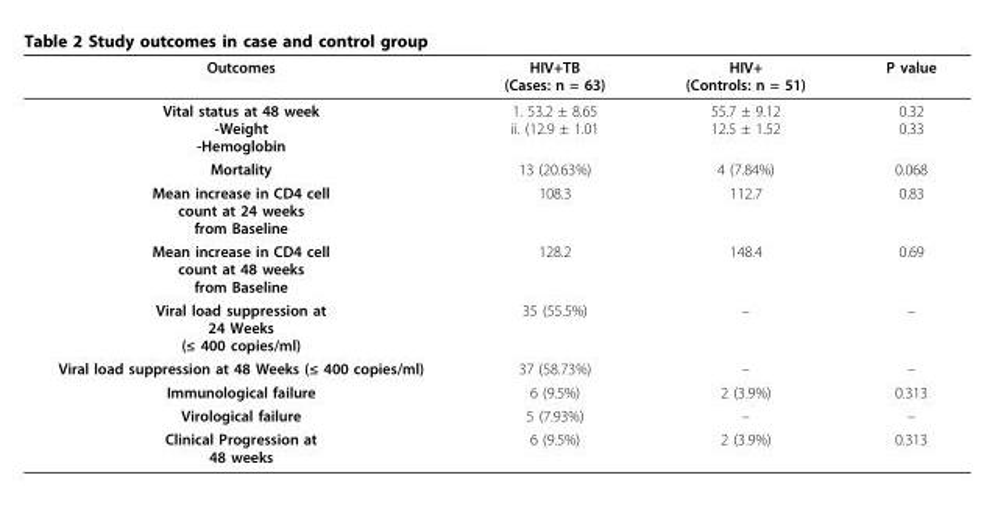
<table><thead><tr><td>Outcomes</td><td>HIV+TB (Cases: n = 63)</td><td>HIV+ (Controls: n = 51)</td><td>P value</td></tr></thead><tbody><tr><td>Vital status at 48 week -Weight -Hemoglobin</td><td>1. 53.2 ± 8.65 ii. (12.9 ± 1.01</td><td>55.7 ± 9.12 12.5 ± 1.52</td><td>0.32 0.33</td></tr><tr><td>Mortality</td><td>13 (20.63%)</td><td>4 (7.84%)</td><td>0.068</td></tr><tr><td>Mean increase in CD4 cell count at 24 weeks from Baseline</td><td>108.3</td><td>112.7</td><td>0.83</td></tr><tr><td>Mean increase in CD4 cell count at 48 weeks from Baseline</td><td>128.2</td><td>148.4</td><td>0.69</td></tr><tr><td>Viral load suppression at 24 Weeks (≤ 400 copies/ml)</td><td>35 (55.5%)</td><td>–</td><td>–</td></tr><tr><td>Viral load suppression at 48 Weeks (≤ 400 copies/ml)</td><td>37 (58.73%)</td><td>–</td><td>–</td></tr><tr><td>Immunological failure</td><td>6 (9.5%)</td><td>2 (3.9%)</td><td>0.313</td></tr><tr><td>Virological failure</td><td>5 (7.93%)</td><td>–</td><td>–</td></tr><tr><td>Clinical Progression at 48 weeks</td><td>6 (9.5%)</td><td>2 (3.9%)</td><td>0.313</td></tr></tbody></table>